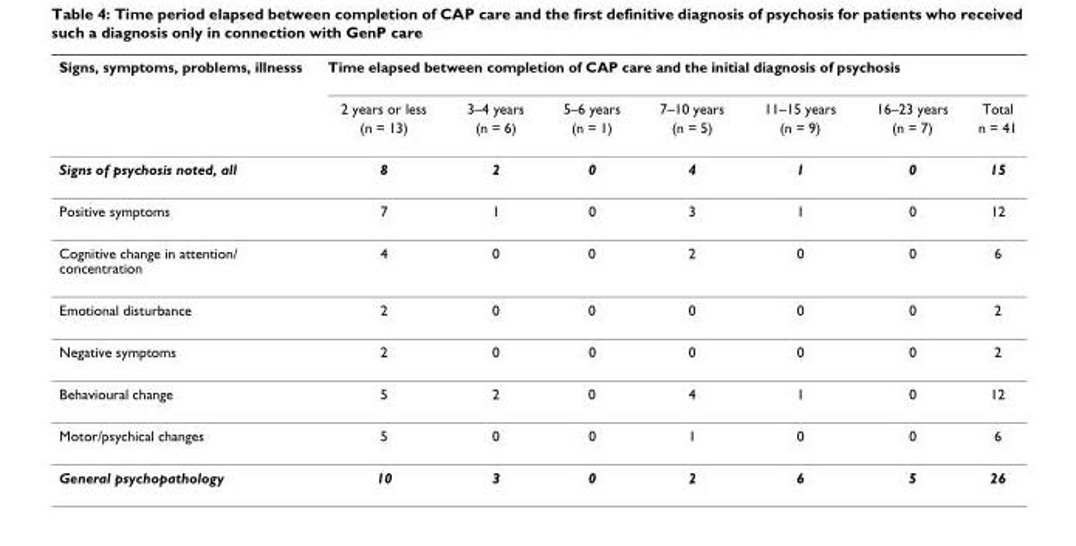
<table><thead><tr><td rowspan="3">Signs, symptoms, problems, illnesss</td><td colspan="6">Time elapsed between completion of CAP care and the initial diagnosis of psychosis</td><td rowspan="3">Total n = 41</td></tr><tr><td rowspan="2">2 years or less (n = 13)</td><td rowspan="2">3–4 years (n = 6)</td><td rowspan="2">5–6 years (n = 1)</td><td rowspan="2">7–10 years (n = 5)</td><td rowspan="2">11–15 years (n = 9)</td><td rowspan="2">16–23 years (n = 7)</td></tr><tr></tr></thead><tbody><tr><td>Signs of psychosis noted, all</td><td>8</td><td>2</td><td>0</td><td>4</td><td>1</td><td>0</td><td>15</td></tr><tr><td>Positive symptoms</td><td>7</td><td>1</td><td>0</td><td>3</td><td>1</td><td>0</td><td>12</td></tr><tr><td>Cognitive change in attention/ concentration</td><td>4</td><td>0</td><td>0</td><td>2</td><td>0</td><td>0</td><td>6</td></tr><tr><td>Emotional disturbance</td><td>2</td><td>0</td><td>0</td><td>0</td><td>0</td><td>0</td><td>2</td></tr><tr><td>Negative symptoms</td><td>2</td><td>0</td><td>0</td><td>0</td><td>0</td><td>0</td><td>2</td></tr><tr><td>Behavioural change</td><td>5</td><td>2</td><td>0</td><td>4</td><td>1</td><td>0</td><td>12</td></tr><tr><td>Motor/psychical changes</td><td>5</td><td>0</td><td>0</td><td>1</td><td>0</td><td>0</td><td>6</td></tr><tr><td>General psychopathology</td><td>10</td><td>3</td><td>0</td><td>2</td><td>6</td><td>5</td><td>26</td></tr></tbody></table>